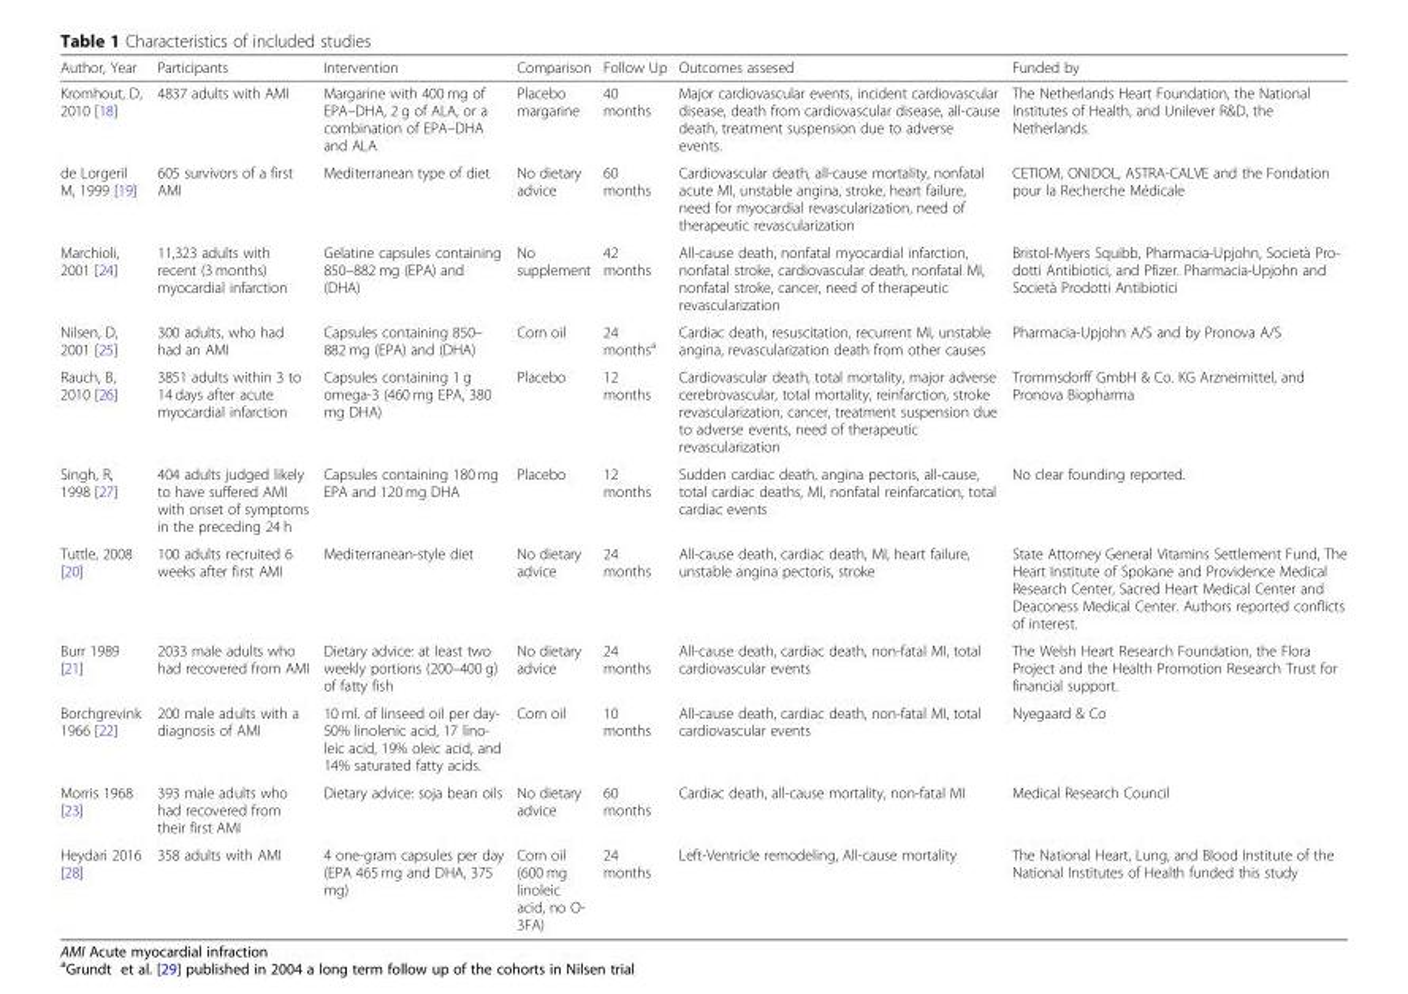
<table><thead><tr><td>Author, Year</td><td>Participants</td><td>Intervention</td><td>Comparison</td><td>Follow Up</td><td>Outcomes assesed</td><td>Funded by</td></tr></thead><tbody><tr><td>Kromhout, D, 2010 [18]</td><td>4837 adults with AMI</td><td>Margarine with 400 mg of EPA–DHA, 2 g of ALA, or a combination of EPA–DHA and ALA</td><td>Placebo margarine</td><td>40 months</td><td>Major cardiovascular events, incident cardiovascular disease, death from cardiovascular disease, all-cause death, treatment suspension due to adverse events.</td><td>The Netherlands Heart Foundation, the National Institutes of Health, and Unilever R&amp;D, the Netherlands.</td></tr><tr><td>de Lorgeril M, 1999 [19]</td><td>605 survivors of a first AMI</td><td>Mediterranean type of diet</td><td>No dietary advice</td><td>60 months</td><td>Cardiovascular death, all-cause mortality, nonfatal acute MI, unstable angina, stroke, heart failure, need for myocardial revascularization, need of therapeutic revascularization</td><td>CETIOM, ONIDOL, ASTRA-CALVE and the Fondation pour la Recherche Médicale</td></tr><tr><td>Marchioli, 2001 [24]</td><td>11,323 adults with recent (3 months) myocardial infarction</td><td>Gelatine capsules containing 850–882 mg (EPA) and (DHA)</td><td>No supplement</td><td>42 months</td><td>All-cause death, nonfatal myocardial infarction, nonfatal stroke, cardiovascular death, nonfatal MI, nonfatal stroke, cancer, need of therapeutic revascularization</td><td>Bristol-Myers Squibb, Pharmacia-Upjohn, Società Pro- dotti Antibiotici, and Pfizer. Pharmacia-Upjohn and Società Prodotti Antibiotici</td></tr><tr><td>Nilsen, D, 2001 [25]</td><td>300 adults, who had had an AMI</td><td>Capsules containing 850– 882 mg (EPA) and (DHA)</td><td>Corn oil</td><td>24 months<sup>a</sup></td><td>Cardiac death, resuscitation, recurrent MI, unstable angina, revascularization death from other causes</td><td>Pharmacia-Upjohn A/S and by Pronova A/S</td></tr><tr><td>Rauch, B, 2010 [26]</td><td>3851 adults within 3 to 14 days after acute myocardial infarction</td><td>Capsules containing 1 g omega-3 (460 mg EPA, 380 mg DHA)</td><td>Placebo</td><td>12 months</td><td>Cardiovascular death, total mortality, major adverse cerebrovascular, total mortality, reinfarction, stroke revascularization, cancer, treatment suspension due to adverse events, need of therapeutic revascularization</td><td>Trommsdorff GmbH &amp; Co. KG Arzneimittel, and Pronova Biopharma</td></tr><tr><td>Singh, R, 1998 [27]</td><td>404 adults judged likely to have suffered AMI with onset of symptoms in the preceding 24 h</td><td>Capsules containing 180 mg EPA and 120 mg DHA</td><td>Placebo</td><td>12 months</td><td>Sudden cardiac death, angina pectoris, all-cause, total cardiac deaths, MI, nonfatal reinfarcation, total cardiac events</td><td>No clear founding reported.</td></tr><tr><td>Tuttle, 2008 [20]</td><td>100 adults recruited 6 weeks after first AMI</td><td>Mediterranean-style diet</td><td>No dietary advice</td><td>24 months</td><td>All-cause death, cardiac death, MI, heart failure, unstable angina pectoris, stroke</td><td>State Attorney General Vitamins Settlement Fund, The Heart Institute of Spokane and Providence Medical Research Center, Sacred Heart Medical Center and Deaconess Medical Center. Authors reported conflicts of interest.</td></tr><tr><td>Burr 1989 [21]</td><td>2033 male adults who had recovered from AMI</td><td>Dietary advice: at least two weekly portions (200–400 g) of fatty fish</td><td>No dietary advice</td><td>24 months</td><td>All-cause death, cardiac death, non-fatal MI, total cardiovascular events</td><td>The Welsh Heart Research Foundation, the Flora Project and the Health Promotion Research Trust for financial support.</td></tr><tr><td>Borchgrevink 1966 [22]</td><td>200 male adults with a diagnosis of AMI</td><td>10 ml. of linseed oil per day- 50% linolenic acid, 17 lino- leic acid, 19% oleic acid, and 14% saturated fatty acids.</td><td>Corn oil</td><td>10 months</td><td>All-cause death, cardiac death, non-fatal MI, total cardiovascular events</td><td>Nyegaard &amp; Co</td></tr><tr><td>Morris 1968 [23]</td><td>393 male adults who had recovered from their first AMI</td><td>Dietary advice: soja bean oils</td><td>No dietary advice</td><td>60 months</td><td>Cardiac death, all-cause mortality, non-fatal MI</td><td>Medical Research Council</td></tr><tr><td>Heydari 2016 [28]</td><td>358 adults with AMI</td><td>4 one-gram capsules per day (EPA 465 mg and DHA, 375 mg)</td><td>Corn oil (600 mg linoleic acid, no O- 3FA)</td><td>24 months</td><td>Left-Ventricle remodeling, All-cause mortality</td><td>The National Heart, Lung, and Blood Institute of the National Institutes of Health funded this study</td></tr></tbody></table>